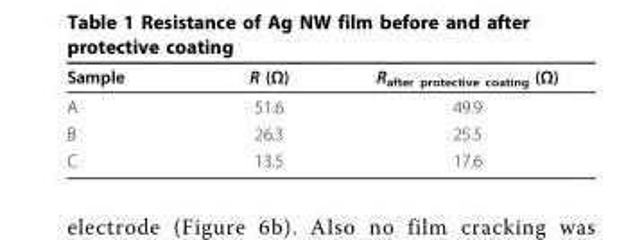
<table><thead><tr><td>Sample</td><td>R (Ω)</td><td>R<sub>after protective coating</sub> (Ω)</td></tr></thead><tbody><tr><td>A</td><td>51.6</td><td>49.9</td></tr><tr><td>B</td><td>26.3</td><td>25.5</td></tr><tr><td>C</td><td>13.5</td><td>17.6</td></tr></tbody></table>